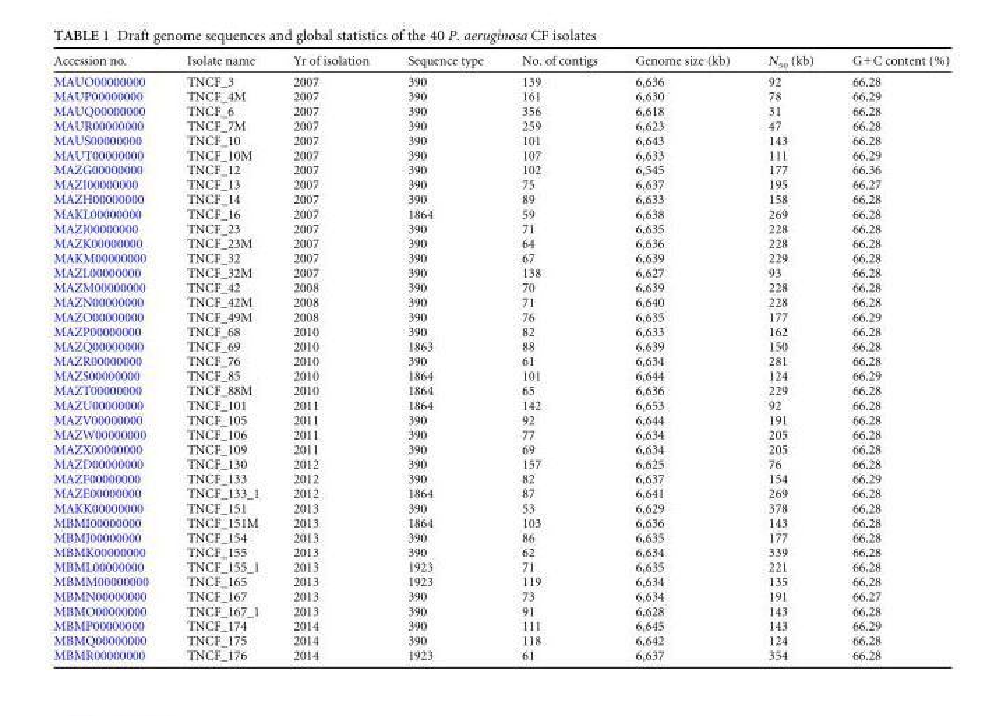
<table><thead><tr><td>Accession no.</td><td>Isolate name</td><td>Yr of isolation</td><td>Sequence type</td><td>No. of contigs</td><td>Genome size (kb)</td><td>N<sub>50</sub> (kb)</td><td>G+C content (%)</td></tr></thead><tbody><tr><td>MAUO00000000</td><td>TNCF_3</td><td>2007</td><td>390</td><td>139</td><td>6,636</td><td>92</td><td>66.28</td></tr><tr><td>MAUP00000000</td><td>TNCF_4M</td><td>2007</td><td>390</td><td>161</td><td>6,630</td><td>78</td><td>66.29</td></tr><tr><td>MAUQ00000000</td><td>TNCF_6</td><td>2007</td><td>390</td><td>356</td><td>6,618</td><td>31</td><td>66.28</td></tr><tr><td>MAUR00000000</td><td>TNCF_7M</td><td>2007</td><td>390</td><td>259</td><td>6,623</td><td>47</td><td>66.28</td></tr><tr><td>MAUS00000000</td><td>TNCF_10</td><td>2007</td><td>390</td><td>101</td><td>6,643</td><td>143</td><td>66.28</td></tr><tr><td>MAUT00000000</td><td>TNCF_10M</td><td>2007</td><td>390</td><td>107</td><td>6,633</td><td>111</td><td>66.29</td></tr><tr><td>MAZG00000000</td><td>TNCF_12</td><td>2007</td><td>390</td><td>102</td><td>6,545</td><td>177</td><td>66.36</td></tr><tr><td>MAZI00000000</td><td>TNCF_13</td><td>2007</td><td>390</td><td>75</td><td>6,637</td><td>195</td><td>66.27</td></tr><tr><td>MAZH00000000</td><td>TNCF_14</td><td>2007</td><td>390</td><td>89</td><td>6,633</td><td>158</td><td>66.28</td></tr><tr><td>MAKL00000000</td><td>TNCF_16</td><td>2007</td><td>1864</td><td>59</td><td>6,638</td><td>269</td><td>66.28</td></tr><tr><td>MAZJ00000000</td><td>TNCF_23</td><td>2007</td><td>390</td><td>71</td><td>6,635</td><td>228</td><td>66.28</td></tr><tr><td>MAZK00000000</td><td>TNCF_23M</td><td>2007</td><td>390</td><td>64</td><td>6,636</td><td>228</td><td>66.28</td></tr><tr><td>MAKM00000000</td><td>TNCF_32</td><td>2007</td><td>390</td><td>67</td><td>6,639</td><td>229</td><td>66.28</td></tr><tr><td>MAZL00000000</td><td>TNCF_32M</td><td>2007</td><td>390</td><td>138</td><td>6,627</td><td>93</td><td>66.28</td></tr><tr><td>MAZM00000000</td><td>TNCF_42</td><td>2008</td><td>390</td><td>70</td><td>6,639</td><td>228</td><td>66.28</td></tr><tr><td>MAZN00000000</td><td>TNCF_42M</td><td>2008</td><td>390</td><td>71</td><td>6,640</td><td>228</td><td>66.28</td></tr><tr><td>MAZO00000000</td><td>TNCF_49M</td><td>2008</td><td>390</td><td>76</td><td>6,635</td><td>177</td><td>66.29</td></tr><tr><td>MAZP00000000</td><td>TNCF_68</td><td>2010</td><td>390</td><td>82</td><td>6,633</td><td>162</td><td>66.28</td></tr><tr><td>MAZQ00000000</td><td>TNCF_69</td><td>2010</td><td>1863</td><td>88</td><td>6,639</td><td>150</td><td>66.28</td></tr><tr><td>MAZR00000000</td><td>TNCF_76</td><td>2010</td><td>390</td><td>61</td><td>6,634</td><td>281</td><td>66.28</td></tr><tr><td>MAZS00000000</td><td>TNCF_85</td><td>2010</td><td>1864</td><td>101</td><td>6,644</td><td>124</td><td>66.29</td></tr><tr><td>MAZT00000000</td><td>TNCF_88M</td><td>2010</td><td>1864</td><td>65</td><td>6,636</td><td>229</td><td>66.28</td></tr><tr><td>MAZU00000000</td><td>TNCF_101</td><td>2011</td><td>1864</td><td>142</td><td>6,653</td><td>92</td><td>66.28</td></tr><tr><td>MAZV00000000</td><td>TNCF_105</td><td>2011</td><td>390</td><td>92</td><td>6,644</td><td>191</td><td>66.28</td></tr><tr><td>MAZW00000000</td><td>TNCF_106</td><td>2011</td><td>390</td><td>77</td><td>6,634</td><td>205</td><td>66.28</td></tr><tr><td>MAZX00000000</td><td>TNCF_109</td><td>2011</td><td>390</td><td>69</td><td>6,634</td><td>205</td><td>66.28</td></tr><tr><td>MAZD00000000</td><td>TNCF_130</td><td>2012</td><td>390</td><td>157</td><td>6,625</td><td>76</td><td>66.28</td></tr><tr><td>MAZF00000000</td><td>TNCF_133</td><td>2012</td><td>390</td><td>82</td><td>6,637</td><td>154</td><td>66.29</td></tr><tr><td>MAZE00000000</td><td>TNCF_133_1</td><td>2012</td><td>1864</td><td>87</td><td>6,641</td><td>269</td><td>66.28</td></tr><tr><td>MAKK00000000</td><td>TNCF_151</td><td>2013</td><td>390</td><td>53</td><td>6,629</td><td>378</td><td>66.28</td></tr><tr><td>MBMI00000000</td><td>TNCF_151M</td><td>2013</td><td>1864</td><td>103</td><td>6,636</td><td>143</td><td>66.28</td></tr><tr><td>MBMJ00000000</td><td>TNCF_154</td><td>2013</td><td>390</td><td>86</td><td>6,635</td><td>177</td><td>66.28</td></tr><tr><td>MBMK00000000</td><td>TNCF_155</td><td>2013</td><td>390</td><td>62</td><td>6,634</td><td>339</td><td>66.28</td></tr><tr><td>MBML00000000</td><td>TNCF_155_1</td><td>2013</td><td>1923</td><td>71</td><td>6,635</td><td>221</td><td>66.28</td></tr><tr><td>MBMM00000000</td><td>TNCF_165</td><td>2013</td><td>1923</td><td>119</td><td>6,634</td><td>135</td><td>66.28</td></tr><tr><td>MBMN00000000</td><td>TNCF_167</td><td>2013</td><td>390</td><td>73</td><td>6,634</td><td>191</td><td>66.27</td></tr><tr><td>MBMO00000000</td><td>TNCF_167_1</td><td>2013</td><td>390</td><td>91</td><td>6,628</td><td>143</td><td>66.28</td></tr><tr><td>MBMP00000000</td><td>TNCF_174</td><td>2014</td><td>390</td><td>111</td><td>6,645</td><td>143</td><td>66.29</td></tr><tr><td>MBMQ00000000</td><td>TNCF_175</td><td>2014</td><td>390</td><td>118</td><td>6,642</td><td>124</td><td>66.28</td></tr><tr><td>MBMR00000000</td><td>TNCF_176</td><td>2014</td><td>1923</td><td>61</td><td>6,637</td><td>354</td><td>66.28</td></tr></tbody></table>